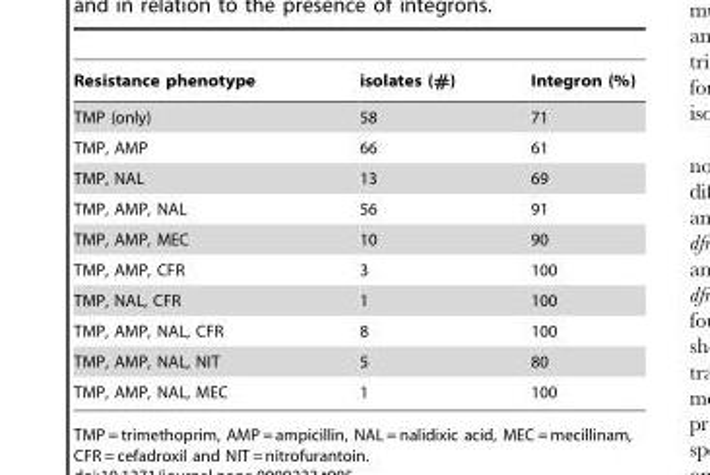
<table><thead><tr><td>Resistance phenotype</td><td>isolates (#)</td><td>Integron (%)</td></tr></thead><tbody><tr><td>TMP (only)</td><td>58</td><td>71</td></tr><tr><td>TMP, AMP</td><td>66</td><td>61</td></tr><tr><td>TMP, NAL</td><td>13</td><td>69</td></tr><tr><td>TMP, AMP, NAL</td><td>56</td><td>91</td></tr><tr><td>TMP, AMP, MEC</td><td>10</td><td>90</td></tr><tr><td>TMP, AMP, CFR</td><td>3</td><td>100</td></tr><tr><td>TMP, NAL, CFR</td><td>1</td><td>100</td></tr><tr><td>TMP, AMP, NAL, CFR</td><td>8</td><td>100</td></tr><tr><td>TMP, AMP, NAL, NIT</td><td>5</td><td>80</td></tr><tr><td>TMP, AMP, NAL, MEC</td><td>1</td><td>100</td></tr></tbody></table>